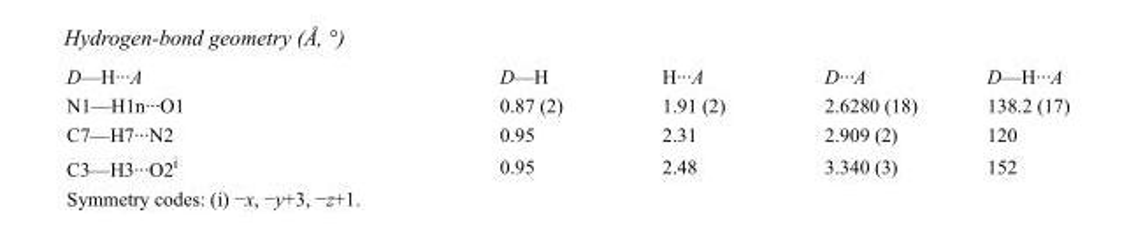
<table><tbody><tr><td>D—H···A</td><td>D—H</td><td>H···A</td><td>D···A</td><td>D—H···A</td></tr><tr><td>N1—H1n···O1</td><td>0.87 (2)</td><td>1.91 (2)</td><td>2.6280 (18)</td><td>138.2 (17)</td></tr><tr><td>C7—H7···N2</td><td>0.95</td><td>2.31</td><td>2.909 (2)</td><td>120</td></tr><tr><td>C3—H3···O2<sup>i</sup></td><td>0.95</td><td>2.48</td><td>3.340 (3)</td><td>152</td></tr></tbody></table>